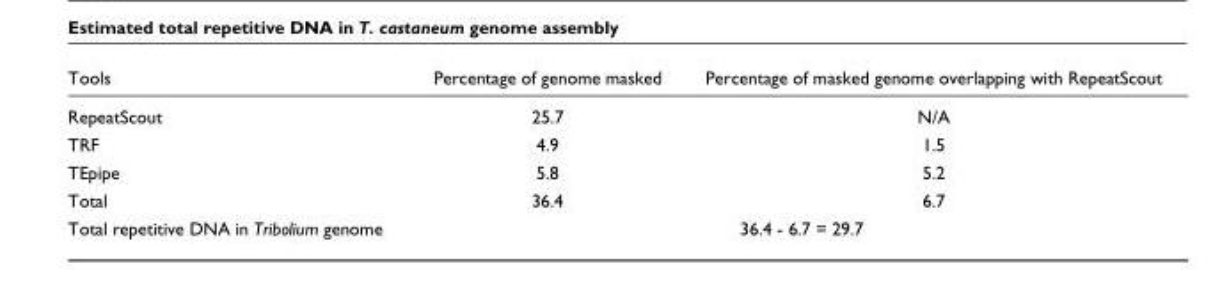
<table><thead><tr><td>Tools</td><td>Percentage of genome masked</td><td>Percentage of masked genome overlapping with RepeatScout</td></tr></thead><tbody><tr><td>RepeatScout</td><td>25.7</td><td>N/A</td></tr><tr><td>TRF</td><td>4.9</td><td>1.5</td></tr><tr><td>TEpipe</td><td>5.8</td><td>5.2</td></tr><tr><td>Total</td><td>36.4</td><td>6.7</td></tr><tr><td>Total repetitive DNA in Tribolium genome</td><td colspan="2">36.4 - 6.7 = 29.7</td></tr></tbody></table>